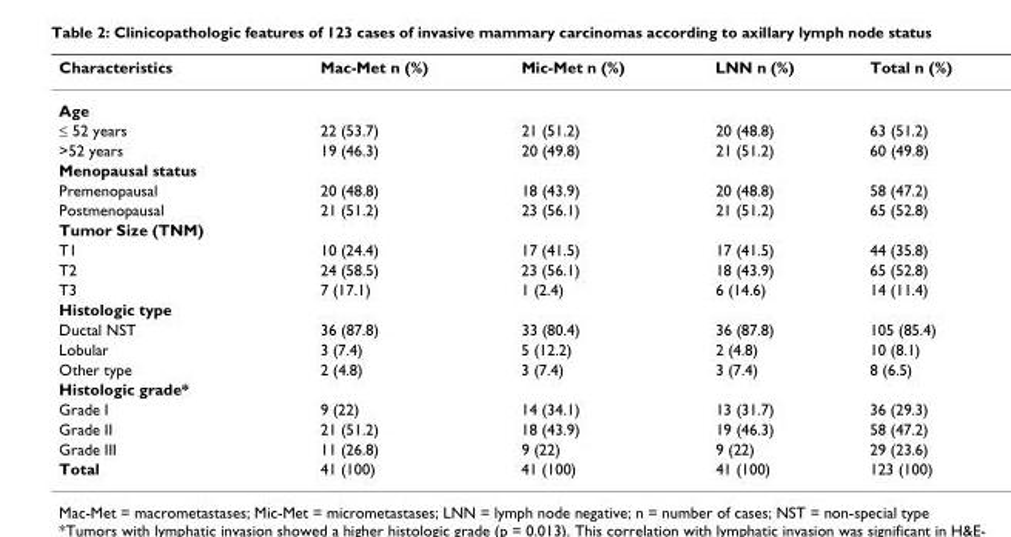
<table><thead><tr><td>Characteristics</td><td>Mac-Met n (%)</td><td>Mic-Met n (%)</td><td>LNN n (%)</td><td>Total n (%)</td></tr></thead><tbody><tr><td colspan="5">Age</td></tr><tr><td>≤ 52 years</td><td>22 (53.7)</td><td>21 (51.2)</td><td>20 (48.8)</td><td>63 (51.2)</td></tr><tr><td>&gt;52 years</td><td>19 (46.3)</td><td>20 (49.8)</td><td>21 (51.2)</td><td>60 (49.8)</td></tr><tr><td colspan="5">Menopausal status</td></tr><tr><td>Premenopausal</td><td>20 (48.8)</td><td>18 (43.9)</td><td>20 (48.8)</td><td>58 (47.2)</td></tr><tr><td>Postmenopausal</td><td>21 (51.2)</td><td>23 (56.1)</td><td>21 (51.2)</td><td>65 (52.8)</td></tr><tr><td colspan="5">Tumor Size (TNM)</td></tr><tr><td>T1</td><td>10 (24.4)</td><td>17 (41.5)</td><td>17 (41.5)</td><td>44 (35.8)</td></tr><tr><td>T2</td><td>24 (58.5)</td><td>23 (56.1)</td><td>18 (43.9)</td><td>65 (52.8)</td></tr><tr><td>T3</td><td>7 (17.1)</td><td>1 (2.4)</td><td>6 (14.6)</td><td>14 (11.4)</td></tr><tr><td colspan="5">Histologic type</td></tr><tr><td>Ductal NST</td><td>36 (87.8)</td><td>33 (80.4)</td><td>36 (87.8)</td><td>105 (85.4)</td></tr><tr><td>Lobular</td><td>3 (7.4)</td><td>5 (12.2)</td><td>2 (4.8)</td><td>10 (8.1)</td></tr><tr><td>Other type</td><td>2 (4.8)</td><td>3 (7.4)</td><td>3 (7.4)</td><td>8 (6.5)</td></tr><tr><td colspan="5">Histologic grade*</td></tr><tr><td>Grade I</td><td>9 (22)</td><td>14 (34.1)</td><td>13 (31.7)</td><td>36 (29.3)</td></tr><tr><td>Grade II</td><td>21 (51.2)</td><td>18 (43.9)</td><td>19 (46.3)</td><td>58 (47.2)</td></tr><tr><td>Grade III</td><td>11 (26.8)</td><td>9 (22)</td><td>9 (22)</td><td>29 (23.6)</td></tr><tr><td>Total</td><td>41 (100)</td><td>41 (100)</td><td>41 (100)</td><td>123 (100)</td></tr></tbody></table>